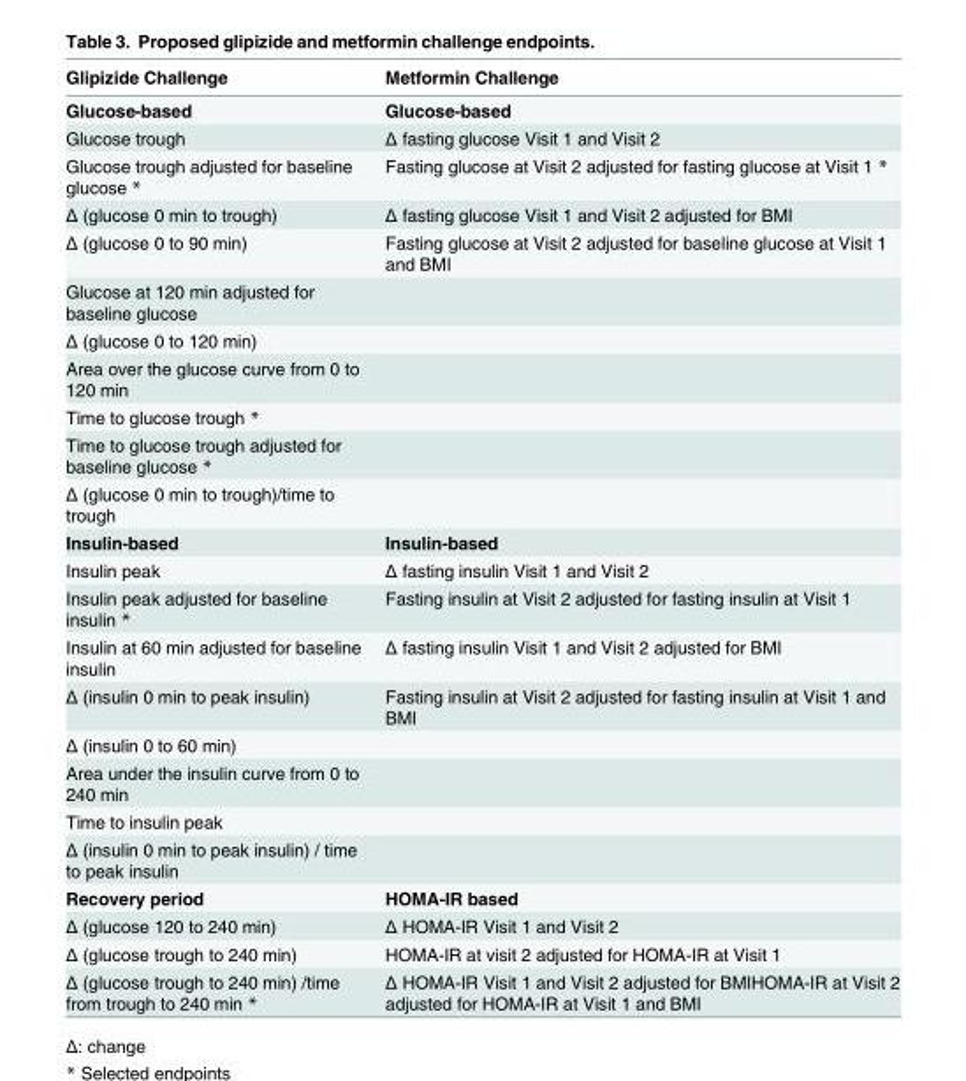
<table><thead><tr><td>Glipizide Challenge</td><td>Metformin Challenge</td></tr></thead><tbody><tr><td>Glucose-based</td><td>Glucose-based</td></tr><tr><td>Glucose trough</td><td>Δ fasting glucose Visit 1 and Visit 2</td></tr><tr><td>Glucose trough adjusted for baseline glucose *</td><td>Fasting glucose at Visit 2 adjusted for fasting glucose at Visit 1 *</td></tr><tr><td>Δ (glucose 0 min to trough)</td><td>Δ fasting glucose Visit 1 and Visit 2 adjusted for BMI</td></tr><tr><td>Δ (glucose 0 to 90 min)</td><td>Fasting glucose at Visit 2 adjusted for baseline glucose at Visit 1 and BMI</td></tr><tr><td colspan="2">Glucose at 120 min adjusted for baseline glucose</td></tr><tr><td colspan="2">Δ (glucose 0 to 120 min)</td></tr><tr><td colspan="2">Area over the glucose curve from 0 to 120 min</td></tr><tr><td colspan="2">Time to glucose trough *</td></tr><tr><td colspan="2">Time to glucose trough adjusted for baseline glucose *</td></tr><tr><td colspan="2">Δ (glucose 0 min to trough)/time to trough</td></tr><tr><td>Insulin-based</td><td>Insulin-based</td></tr><tr><td>Insulin peak</td><td>Δ fasting insulin Visit 1 and Visit 2</td></tr><tr><td>Insulin peak adjusted for baseline insulin *</td><td>Fasting insulin at Visit 2 adjusted for fasting insulin at Visit 1</td></tr><tr><td>Insulin at 60 min adjusted for baseline insulin</td><td>Δ fasting insulin Visit 1 and Visit 2 adjusted for BMI</td></tr><tr><td>Δ (insulin 0 min to peak insulin)</td><td>Fasting insulin at Visit 2 adjusted for fasting insulin at Visit 1 and BMI</td></tr><tr><td colspan="2">Δ (insulin 0 to 60 min)</td></tr><tr><td colspan="2">Area under the insulin curve from 0 to 240 min</td></tr><tr><td colspan="2">Time to insulin peak</td></tr><tr><td colspan="2">Δ (insulin 0 min to peak insulin) / time to peak insulin</td></tr><tr><td>Recovery period</td><td>HOMA-IR based</td></tr><tr><td>Δ (glucose 120 to 240 min)</td><td>Δ HOMA-IR Visit 1 and Visit 2</td></tr><tr><td>Δ (glucose trough to 240 min)</td><td>HOMA-IR at visit 2 adjusted for HOMA-IR at Visit 1</td></tr><tr><td>Δ (glucose trough to 240 min) /time from trough to 240 min *</td><td>Δ HOMA-IR Visit 1 and Visit 2 adjusted for BMIHOMA-IR at Visit 2 adjusted for HOMA-IR at Visit 1 and BMI</td></tr></tbody></table>